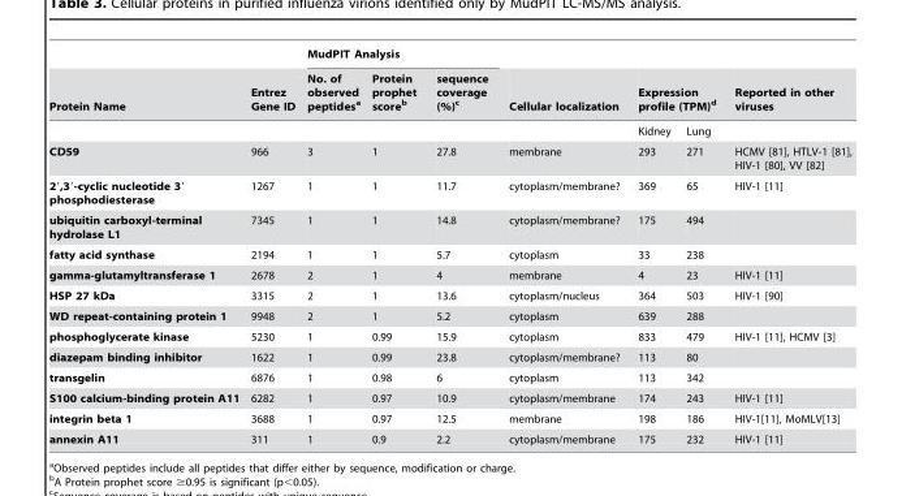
<table><thead><tr><td rowspan="2">Protein Name</td><td rowspan="2">Entrez Gene ID</td><td colspan="3">MudPIT Analysis</td><td rowspan="2">Cellular localization</td><td></td><td></td><td rowspan="2">Reported in other viruses</td></tr><tr><td>No. of observed peptides<sup>a</sup></td><td>Protein prophet score<sup>b</sup></td><td>sequence coverage (%)<sup>c</sup></td><td colspan="2">Expression profile (TPM)<sup>d</sup></td></tr></thead><tbody><tr><td></td><td></td><td></td><td></td><td></td><td></td><td>Kidney</td><td>Lung</td><td></td></tr><tr><td>CD59</td><td>966</td><td>3</td><td>1</td><td>27.8</td><td>membrane</td><td>293</td><td>271</td><td>HCMV [81], HTLV-1 [81], HIV-1 [80], VV [82]</td></tr><tr><td>2′,3′-cyclic nucleotide 3′ phosphodiesterase</td><td>1267</td><td>1</td><td>1</td><td>11.7</td><td>cytoplasm/membrane?</td><td>369</td><td>65</td><td>HIV-1 [11]</td></tr><tr><td>ubiquitin carboxyl-terminal hydrolase L1</td><td>7345</td><td>1</td><td>1</td><td>14.8</td><td>cytoplasm/membrane?</td><td>175</td><td>494</td><td></td></tr><tr><td>fatty acid synthase</td><td>2194</td><td>1</td><td>1</td><td>5.7</td><td>cytoplasm</td><td>33</td><td>238</td><td></td></tr><tr><td>gamma-glutamyltransferase 1</td><td>2678</td><td>2</td><td>1</td><td>4</td><td>membrane</td><td>4</td><td>23</td><td>HIV-1 [11]</td></tr><tr><td>HSP 27 kDa</td><td>3315</td><td>2</td><td>1</td><td>13.6</td><td>cytoplasm/nucleus</td><td>364</td><td>503</td><td>HIV-1 [90]</td></tr><tr><td>WD repeat-containing protein 1</td><td>9948</td><td>2</td><td>1</td><td>5.2</td><td>cytoplasm</td><td>639</td><td>288</td><td></td></tr><tr><td>phosphoglycerate kinase</td><td>5230</td><td>1</td><td>0.99</td><td>15.9</td><td>cytoplasm</td><td>833</td><td>479</td><td>HIV-1 [11], HCMV [3]</td></tr><tr><td>diazepam binding inhibitor</td><td>1622</td><td>1</td><td>0.99</td><td>23.8</td><td>cytoplasm/membrane?</td><td>113</td><td>80</td><td></td></tr><tr><td>transgelin</td><td>6876</td><td>1</td><td>0.98</td><td>6</td><td>cytoplasm</td><td>113</td><td>342</td><td></td></tr><tr><td>S100 calcium-binding protein A11</td><td>6282</td><td>1</td><td>0.97</td><td>10.9</td><td>cytoplasm/membrane</td><td>174</td><td>243</td><td>HIV-1 [11]</td></tr><tr><td>integrin beta 1</td><td>3688</td><td>1</td><td>0.97</td><td>12.5</td><td>membrane</td><td>198</td><td>186</td><td>HIV-1[11], MoMLV[13]</td></tr><tr><td>annexin A11</td><td>311</td><td>1</td><td>0.9</td><td>2.2</td><td>cytoplasm/membrane</td><td>175</td><td>232</td><td>HIV-1 [11]</td></tr></tbody></table>